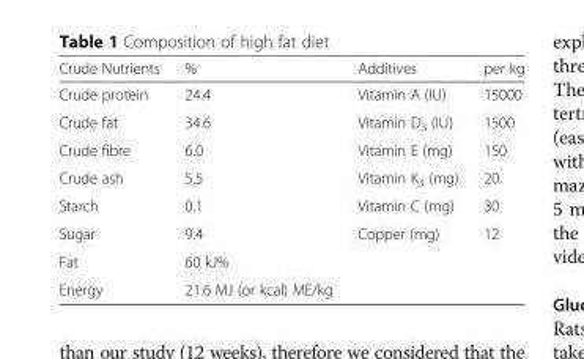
<table><thead><tr><td>Crude Nutrients</td><td>%</td><td>Additives</td><td>per kg</td></tr></thead><tbody><tr><td>Crude protein</td><td>24.4</td><td>Vitamin A (IU)</td><td>15000</td></tr><tr><td>Crude fat</td><td>34.6</td><td>Vitamin D<sub>3</sub> (IU)</td><td>1500</td></tr><tr><td>Crude fibre</td><td>6.0</td><td>Vitamin E (mg)</td><td>150</td></tr><tr><td>Crude ash</td><td>5.5</td><td>Vitamin K<sub>3</sub> (mg)</td><td>20</td></tr><tr><td>Starch</td><td>0.1</td><td>Vitamin C (mg)</td><td>30</td></tr><tr><td>Sugar</td><td>9.4</td><td>Copper (mg)</td><td>12</td></tr><tr><td>Fat</td><td>60 kJ%</td><td></td><td></td></tr><tr><td>Energy</td><td>21.6 MJ (or kcal) ME/kg</td><td></td><td></td></tr></tbody></table>